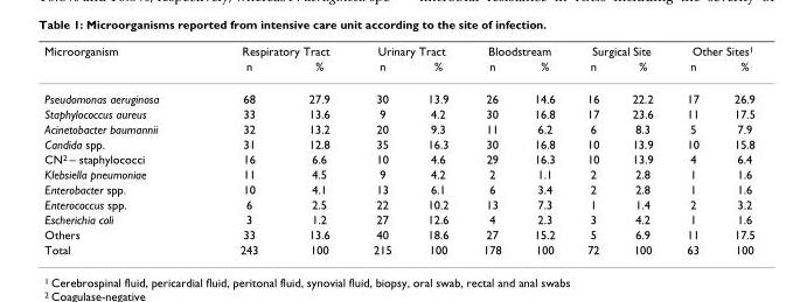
<table><thead><tr><td rowspan="2">Microorganism</td><td colspan="2">Respiratory Tract</td><td colspan="2">Urinary Tract</td><td colspan="2">Bloodstream</td><td colspan="2">Surgical Site</td><td colspan="2">Other Sites<sup>1</sup></td></tr><tr><td>n</td><td>%</td><td>n</td><td>%</td><td>n</td><td>%</td><td>n</td><td>%</td><td>n</td><td>%</td></tr></thead><tbody><tr><td>Pseudomonas aeruginosa</td><td>68</td><td>27.9</td><td>30</td><td>13.9</td><td>26</td><td>14.6</td><td>16</td><td>22.2</td><td>17</td><td>26.9</td></tr><tr><td>Staphylococcus aureus</td><td>33</td><td>13.6</td><td>9</td><td>4.2</td><td>30</td><td>16.8</td><td>17</td><td>23.6</td><td>11</td><td>17.5</td></tr><tr><td>Acinetobacter baumannii</td><td>32</td><td>13.2</td><td>20</td><td>9.3</td><td>11</td><td>6.2</td><td>6</td><td>8.3</td><td>5</td><td>7.9</td></tr><tr><td>Candida spp.</td><td>31</td><td>12.8</td><td>35</td><td>16.3</td><td>30</td><td>16.8</td><td>10</td><td>13.9</td><td>10</td><td>15.8</td></tr><tr><td>CN<sup>2</sup> – staphylococci</td><td>16</td><td>6.6</td><td>10</td><td>4.6</td><td>29</td><td>16.3</td><td>10</td><td>13.9</td><td>4</td><td>6.4</td></tr><tr><td>Klebsiella pneumoniae</td><td>11</td><td>4.5</td><td>9</td><td>4.2</td><td>2</td><td>1.1</td><td>2</td><td>2.8</td><td>1</td><td>1.6</td></tr><tr><td>Enterobacter spp.</td><td>10</td><td>4.1</td><td>13</td><td>6.1</td><td>6</td><td>3.4</td><td>2</td><td>2.8</td><td>1</td><td>1.6</td></tr><tr><td>Enterococcus spp.</td><td>6</td><td>2.5</td><td>22</td><td>10.2</td><td>13</td><td>7.3</td><td>1</td><td>1.4</td><td>2</td><td>3.2</td></tr><tr><td>Escherichia coli</td><td>3</td><td>1.2</td><td>27</td><td>12.6</td><td>4</td><td>2.3</td><td>3</td><td>4.2</td><td>1</td><td>1.6</td></tr><tr><td>Others</td><td>33</td><td>13.6</td><td>40</td><td>18.6</td><td>27</td><td>15.2</td><td>5</td><td>6.9</td><td>11</td><td>17.5</td></tr><tr><td>Total</td><td>243</td><td>100</td><td>215</td><td>100</td><td>178</td><td>100</td><td>72</td><td>100</td><td>63</td><td>100</td></tr></tbody></table>